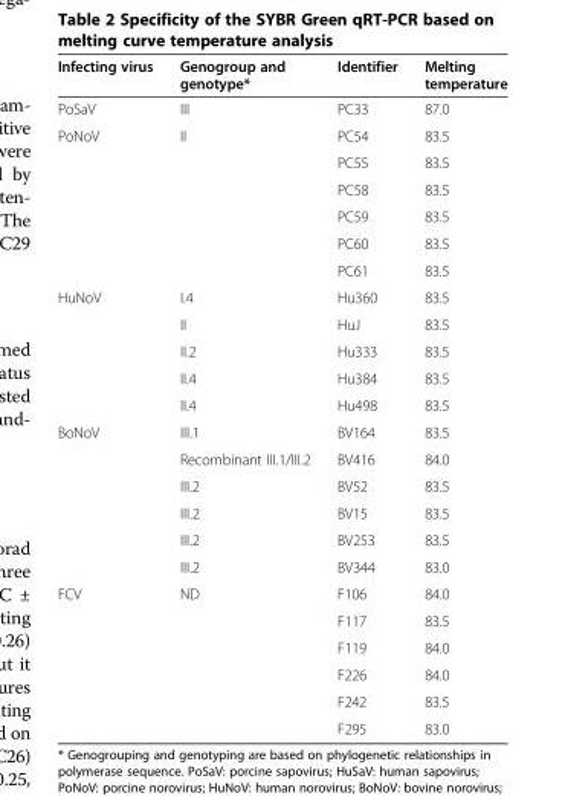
<table><thead><tr><td>Infecting virus</td><td>Genogroup and genotype*</td><td>Identifier</td><td>Melting temperature</td></tr></thead><tbody><tr><td>PoSaV</td><td>III</td><td>PC33</td><td>87.0</td></tr><tr><td rowspan="6">PoNoV</td><td>II</td><td>PC54</td><td>83.5</td></tr><tr><td></td><td>PC55</td><td>83.5</td></tr><tr><td></td><td>PC58</td><td>83.5</td></tr><tr><td></td><td>PC59</td><td>83.5</td></tr><tr><td></td><td>PC60</td><td>83.5</td></tr><tr><td></td><td>PC61</td><td>83.5</td></tr><tr><td rowspan="5">HuNoV</td><td>I.4</td><td>Hu360</td><td>83.5</td></tr><tr><td>II</td><td>HuJ</td><td>83.5</td></tr><tr><td>II.2</td><td>Hu333</td><td>83.5</td></tr><tr><td>II.4</td><td>Hu384</td><td>83.5</td></tr><tr><td>II.4</td><td>Hu498</td><td>83.5</td></tr><tr><td rowspan="6">BoNoV</td><td>III.1</td><td>BV164</td><td>83.5</td></tr><tr><td>Recombinant III.1/III.2</td><td>BV416</td><td>84.0</td></tr><tr><td>III.2</td><td>BV52</td><td>83.5</td></tr><tr><td>III.2</td><td>BV15</td><td>83.5</td></tr><tr><td>III.2</td><td>BV253</td><td>83.5</td></tr><tr><td>III.2</td><td>BV344</td><td>83.0</td></tr><tr><td rowspan="6">FCV</td><td>ND</td><td>F106</td><td>84.0</td></tr><tr><td></td><td>F117</td><td>83.5</td></tr><tr><td></td><td>F119</td><td>84.0</td></tr><tr><td></td><td>F226</td><td>84.0</td></tr><tr><td></td><td>F242</td><td>83.5</td></tr><tr><td></td><td>F295</td><td>83.0</td></tr></tbody></table>